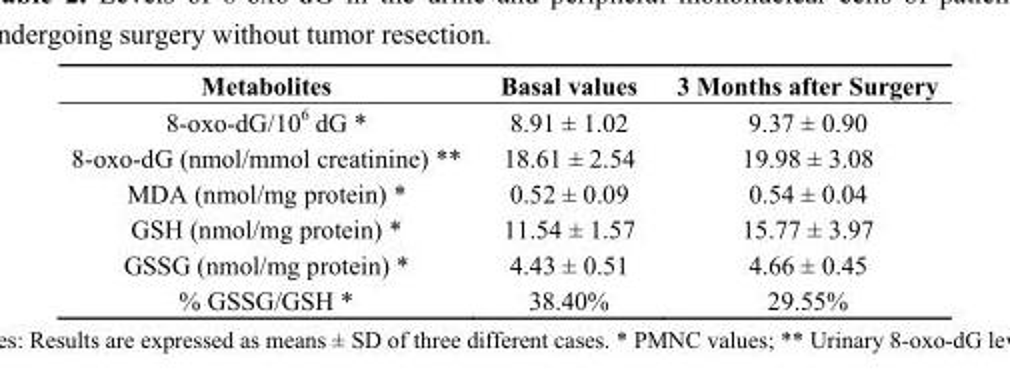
<table><thead><tr><td>Metabolites</td><td>Basal values</td><td>3 Months after Surgery</td></tr></thead><tbody><tr><td>8-oxo-dG/10<sup>6</sup> dG *</td><td>8.91 ± 1.02</td><td>9.37 ± 0.90</td></tr><tr><td>8-oxo-dG (nmol/mmol creatinine) **</td><td>18.61 ± 2.54</td><td>19.98 ± 3.08</td></tr><tr><td>MDA (nmol/mg protein) *</td><td>0.52 ± 0.09</td><td>0.54 ± 0.04</td></tr><tr><td>GSH (nmol/mg protein) *</td><td>11.54 ± 1.57</td><td>15.77 ± 3.97</td></tr><tr><td>GSSG (nmol/mg protein) *</td><td>4.43 ± 0.51</td><td>4.66 ± 0.45</td></tr><tr><td>% GSSG/GSH *</td><td>38.40%</td><td>29.55%</td></tr></tbody></table>